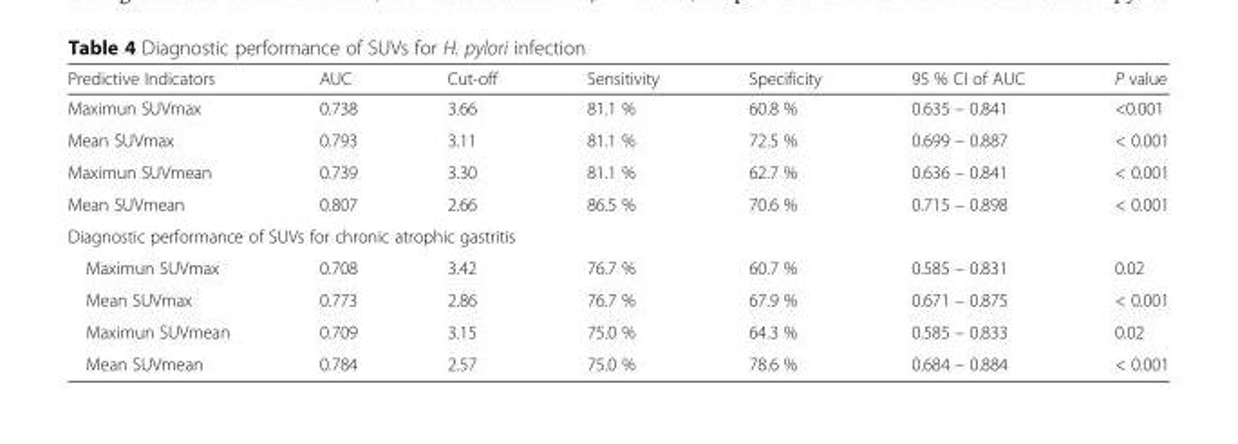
<table><thead><tr><td>Predictive Indicators</td><td>AUC</td><td>Cut-off</td><td>Sensitivity</td><td>Specificity</td><td>95 % CI of AUC</td><td>P value</td></tr></thead><tbody><tr><td>Maximun SUVmax</td><td>0.738</td><td>3.66</td><td>81.1 %</td><td>60.8 %</td><td>0.635 – 0.841</td><td>&lt;0.001</td></tr><tr><td>Mean SUVmax</td><td>0.793</td><td>3.11</td><td>81.1 %</td><td>72.5 %</td><td>0.699 – 0.887</td><td>&lt; 0.001</td></tr><tr><td>Maximun SUVmean</td><td>0.739</td><td>3.30</td><td>81.1 %</td><td>62.7 %</td><td>0.636 – 0.841</td><td>&lt; 0.001</td></tr><tr><td>Mean SUVmean</td><td>0.807</td><td>2.66</td><td>86.5 %</td><td>70.6 %</td><td>0.715 – 0.898</td><td>&lt; 0.001</td></tr><tr><td colspan="7">Diagnostic performance of SUVs for chronic atrophic gastritis</td></tr><tr><td>Maximun SUVmax</td><td>0.708</td><td>3.42</td><td>76.7 %</td><td>60.7 %</td><td>0.585 – 0.831</td><td>0.02</td></tr><tr><td>Mean SUVmax</td><td>0.773</td><td>2.86</td><td>76.7 %</td><td>67.9 %</td><td>0.671 – 0.875</td><td>&lt; 0.001</td></tr><tr><td>Maximun SUVmean</td><td>0.709</td><td>3.15</td><td>75.0 %</td><td>64.3 %</td><td>0.585 – 0.833</td><td>0.02</td></tr><tr><td>Mean SUVmean</td><td>0.784</td><td>2.57</td><td>75.0 %</td><td>78.6 %</td><td>0.684 – 0.884</td><td>&lt; 0.001</td></tr></tbody></table>